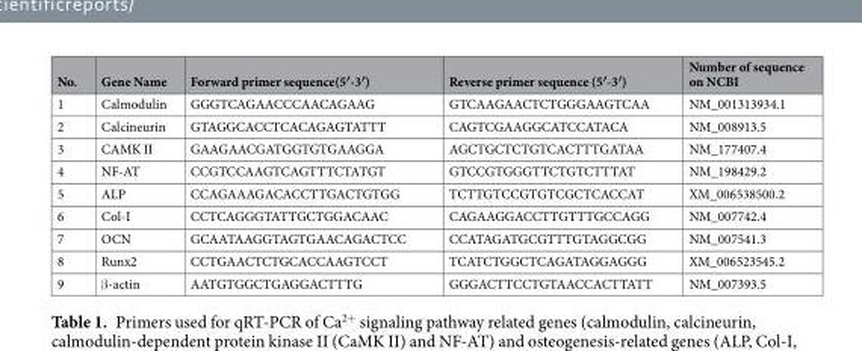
<table><thead><tr><td>No.</td><td>Gene Name</td><td>Forward primer sequence(5′-3′)</td><td>Reverse primer sequence (5′-3′)</td><td>Number of sequence on NCBI</td></tr></thead><tbody><tr><td>1</td><td>Calmodulin</td><td>GGGTCAGAACCCAACAGAAG</td><td>GTCAAGAACTCTGGGAAGTCAA</td><td>NM_001313934.1</td></tr><tr><td>2</td><td>Calcineurin</td><td>GTAGGCACCTCACAGAGTATTT</td><td>CAGTCGAAGGCATCCATACA</td><td>NM_008913.5</td></tr><tr><td>3</td><td>CAMK II</td><td>GAAGAACGATGGTGTGAAGGA</td><td>AGCTGCTCTGTCACTTTGATAA</td><td>NM_177407.4</td></tr><tr><td>4</td><td>NF-AT</td><td>CCGTCCAAGTCAGTTTCTATGT</td><td>GTCCGTGGGTTCTGTCTTTAT</td><td>NM_198429.2</td></tr><tr><td>5</td><td>ALP</td><td>CCAGAAAGACACCTTGACTGTGG</td><td>TCTTGTCCGTGTCGCTCACCAT</td><td>XM_006538500.2</td></tr><tr><td>6</td><td>Col-I</td><td>CCTCAGGGTATTGCTGGACAAC</td><td>CAGAAGGACCTTGTTTGCCAGG</td><td>NM_007742.4</td></tr><tr><td>7</td><td>OCN</td><td>GCAATAAGGTAGTGAACAGACTCC</td><td>CCATAGATGCGTTTGTAGGCGG</td><td>NM_007541.3</td></tr><tr><td>8</td><td>Runx2</td><td>CCTGAACTCTGCACCAAGTCCT</td><td>TCATCTGGCTCAGATAGGAGGG</td><td>XM_006523545.2</td></tr><tr><td>9</td><td>β-actin</td><td>AATGTGGCTGAGGACTTTG</td><td>GGGACTTCCTGTAACCACTTATT</td><td>NM_007393.5</td></tr></tbody></table>